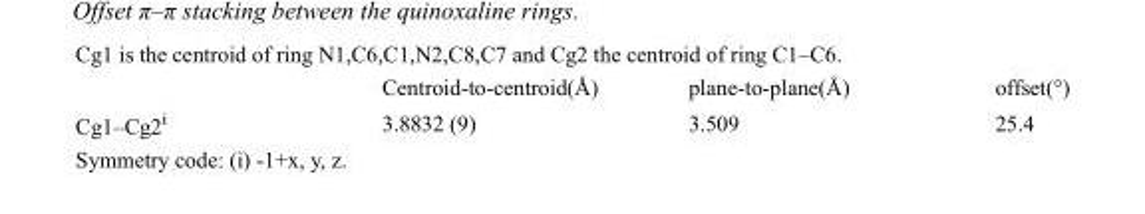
<table><thead><tr><td></td><td>Centroid-to-centroid(Å)</td><td>plane-to-plane(Å)</td><td>offset(°)</td></tr></thead><tbody><tr><td>Cg1–Cg2<sup>i</sup></td><td>3.8832 (9)</td><td>3.509</td><td>25.4</td></tr></tbody></table>